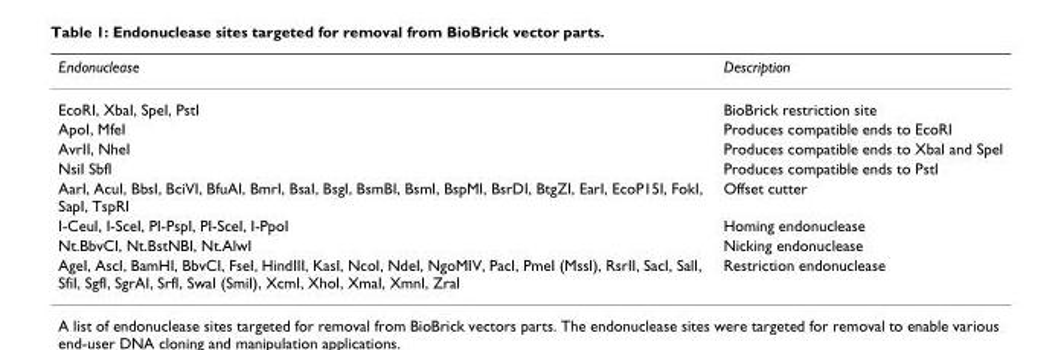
<table><thead><tr><td>Endonuclease</td><td>Description</td></tr></thead><tbody><tr><td>EcoRI, XbaI, SpeI, PstI</td><td>BioBrick restriction site</td></tr><tr><td>ApoI, MfeI</td><td>Produces compatible ends to EcoRI</td></tr><tr><td>AvrII, NheI</td><td>Produces compatible ends to XbaI and SpeI</td></tr><tr><td>NsiI SbfI</td><td>Produces compatible ends to PstI</td></tr><tr><td>AarI, AcuI, BbsI, BciVI, BfuAI, BmrI, BsaI, BsgI, BsmBI, BsmI, BspMI, BsrDI, BtgZI, EarI, EcoP15I, FokI, SapI, TspRI</td><td>Offset cutter</td></tr><tr><td>I-CeuI, I-SceI, PI-PspI, PI-SceI, I-PpoI</td><td>Homing endonuclease</td></tr><tr><td>Nt.BbvCI, Nt.BstNBI, Nt.AlwI</td><td>Nicking endonuclease</td></tr><tr><td>AgeI, AscI, BamHI, BbvCI, FseI, HindIII, KasI, NcoI, NdeI, NgoMIV, PacI, PmeI (MssI), RsrII, SacI, SalI, SfiI, SgfI, SgrAI, SrfI, SwaI (SmiI), XcmI, XhoI, XmaI, XmnI, ZraI</td><td>Restriction endonuclease</td></tr></tbody></table>